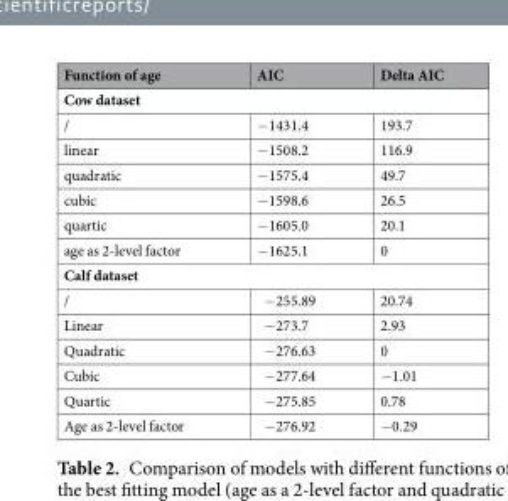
<table><thead><tr><td>Function of age</td><td>AIC</td><td>Delta AIC</td></tr></thead><tbody><tr><td colspan="3">Cow dataset</td></tr><tr><td>/</td><td>−1431.4</td><td>193.7</td></tr><tr><td>linear</td><td>−1508.2</td><td>116.9</td></tr><tr><td>quadratic</td><td>−1575.4</td><td>49.7</td></tr><tr><td>cubic</td><td>−1598.6</td><td>26.5</td></tr><tr><td>quartic</td><td>−1605.0</td><td>20.1</td></tr><tr><td>age as 2-level factor</td><td>−1625.1</td><td>0</td></tr><tr><td colspan="3">Calf dataset</td></tr><tr><td>/</td><td>−255.89</td><td>20.74</td></tr><tr><td>Linear</td><td>−273.7</td><td>2.93</td></tr><tr><td>Quadratic</td><td>−276.63</td><td>0</td></tr><tr><td>Cubic</td><td>−277.64</td><td>−1.01</td></tr><tr><td>Quartic</td><td>−275.85</td><td>0.78</td></tr><tr><td>Age as 2-level factor</td><td>−276.92</td><td>−0.29</td></tr></tbody></table>